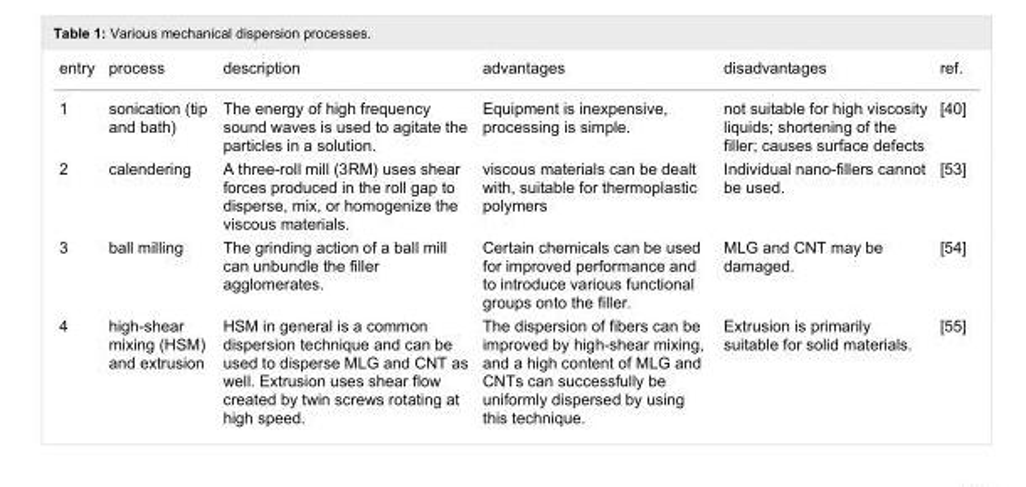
<table><tbody><tr><td>entry</td><td>process</td><td>description</td><td>advantages</td><td>disadvantages</td><td>ref.</td></tr><tr><td>1</td><td>sonication (tip and bath)</td><td>The energy of high frequency sound waves is used to agitate the particles in a solution.</td><td>Equipment is inexpensive, processing is simple.</td><td>not suitable for high viscosity liquids; shortening of the filler; causes surface defects</td><td>[40]</td></tr><tr><td>2</td><td>calendering</td><td>A three-roll mill (3RM) uses shear forces produced in the roll gap to disperse, mix, or homogenize the viscous materials.</td><td>viscous materials can be dealt with, suitable for thermoplastic polymers</td><td>Individual nano-fillers cannot be used.</td><td>[53]</td></tr><tr><td>3</td><td>ball milling</td><td>The grinding action of a ball mill can unbundle the filler agglomerates.</td><td>Certain chemicals can be used for improved performance and to introduce various functional groups onto the filler.</td><td>MLG and CNT may be damaged.</td><td>[54]</td></tr><tr><td>4</td><td>high-shear mixing (HSM) and extrusion</td><td>HSM in general is a common dispersion technique and can be used to disperse MLG and CNT as well. Extrusion uses shear flow created by twin screws rotating at high speed.</td><td>The dispersion of fibers can be improved by high-shear mixing, and a high content of MLG and CNTs can successfully be uniformly dispersed by using this technique.</td><td>Extrusion is primarily suitable for solid materials.</td><td>[55]</td></tr></tbody></table>